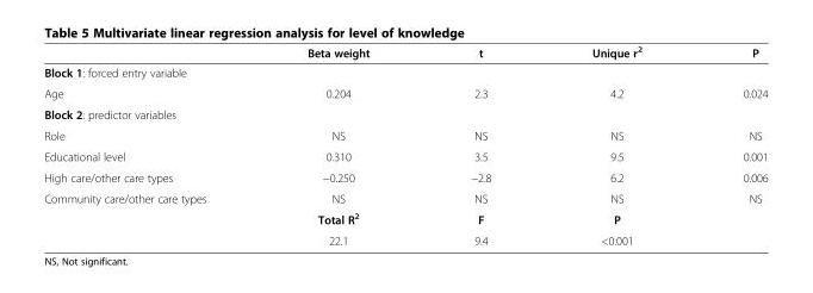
<table><thead><tr><td></td><td>Beta weight</td><td>t</td><td>Unique r<sup>2</sup></td><td>P</td></tr></thead><tbody><tr><td colspan="5">Block 1: forced entry variable</td></tr><tr><td>Age</td><td>0.204</td><td>2.3</td><td>4.2</td><td>0.024</td></tr><tr><td colspan="5">Block 2: predictor variables</td></tr><tr><td>Role</td><td>NS</td><td>NS</td><td>NS</td><td>NS</td></tr><tr><td>Educational level</td><td>0.310</td><td>3.5</td><td>9.5</td><td>0.001</td></tr><tr><td>High care/other care types</td><td>−0.250</td><td>−2.8</td><td>6.2</td><td>0.006</td></tr><tr><td rowspan="3">Community care/other care types</td><td>NS</td><td>NS</td><td>NS</td><td>NS</td></tr><tr><td>Total R<sup>2</sup></td><td>F</td><td>P</td><td></td></tr><tr><td>22.1</td><td>9.4</td><td>&lt;0.001</td><td></td></tr></tbody></table>